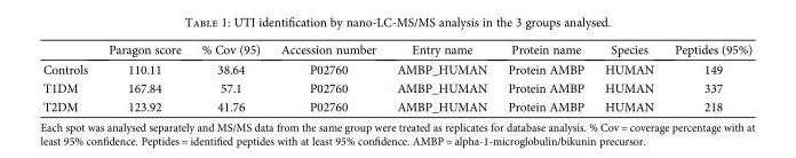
<table><thead><tr><td></td><td>Paragon score</td><td>% Cov (95)</td><td>Accession number</td><td>Entry name</td><td>Protein name</td><td>Species</td><td>Peptides (95%)</td></tr></thead><tbody><tr><td>Controls</td><td>110.11</td><td>38.64</td><td>P02760</td><td>AMBP_HUMAN</td><td>Protein AMBP</td><td>HUMAN</td><td>149</td></tr><tr><td>T1DM</td><td>167.84</td><td>57.1</td><td>P02760</td><td>AMBP_HUMAN</td><td>Protein AMBP</td><td>HUMAN</td><td>337</td></tr><tr><td>T2DM</td><td>123.92</td><td>41.76</td><td>P02760</td><td>AMBP_HUMAN</td><td>Protein AMBP</td><td>HUMAN</td><td>218</td></tr></tbody></table>